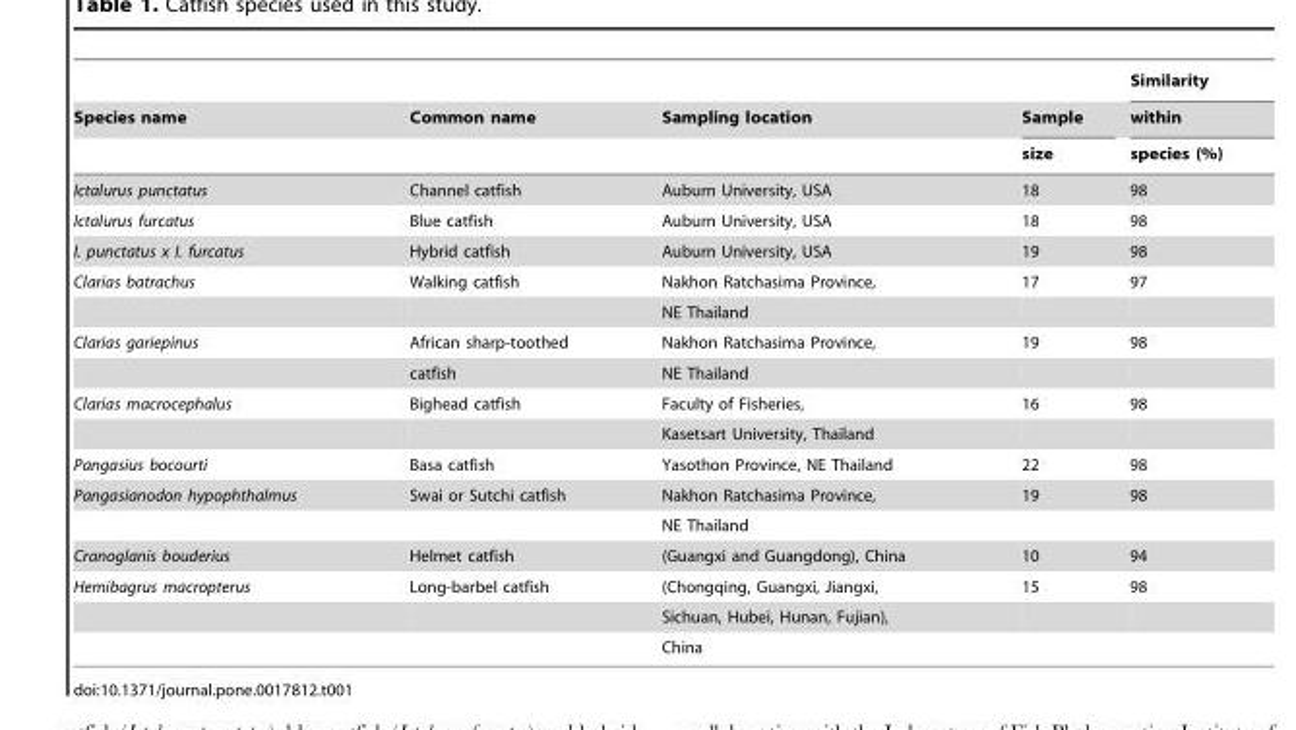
<table><thead><tr><td rowspan="3">Species name</td><td rowspan="3">Common name</td><td rowspan="3">Sampling location</td><td rowspan="3">Sample size</td><td rowspan="3">Similarity within species (%)</td></tr><tr></tr><tr></tr></thead><tbody><tr><td>Ictalurus punctatus</td><td>Channel catfish</td><td>Auburn University, USA</td><td>18</td><td>98</td></tr><tr><td>Ictalurus furcatus</td><td>Blue catfish</td><td>Auburn University, USA</td><td>18</td><td>98</td></tr><tr><td>I. punctatus x I. furcatus</td><td>Hybrid catfish</td><td>Auburn University, USA</td><td>19</td><td>98</td></tr><tr><td rowspan="2">Clarias batrachus</td><td>Walking catfish</td><td>Nakhon Ratchasima Province,</td><td>17</td><td>97</td></tr><tr><td></td><td>NE Thailand</td><td></td><td></td></tr><tr><td rowspan="2">Clarias gariepinus</td><td>African sharp-toothed</td><td>Nakhon Ratchasima Province,</td><td>19</td><td>98</td></tr><tr><td>catfish</td><td>NE Thailand</td><td></td><td></td></tr><tr><td rowspan="2">Clarias macrocephalus</td><td>Bighead catfish</td><td>Faculty of Fisheries,</td><td>16</td><td>98</td></tr><tr><td></td><td>Kasetsart University, Thailand</td><td></td><td></td></tr><tr><td>Pangasius bocourti</td><td>Basa catfish</td><td>Yasothon Province, NE Thailand</td><td>22</td><td>98</td></tr><tr><td rowspan="2">Pangasianodon hypophthalmus</td><td>Swai or Sutchi catfish</td><td>Nakhon Ratchasima Province,</td><td>19</td><td>98</td></tr><tr><td></td><td>NE Thailand</td><td></td><td></td></tr><tr><td>Cranoglanis bouderius</td><td>Helmet catfish</td><td>(Guangxi and Guangdong), China</td><td>10</td><td>94</td></tr><tr><td rowspan="3">Hemibagrus macropterus</td><td>Long-barbel catfish</td><td>(Chongqing, Guangxi, Jiangxi,</td><td>15</td><td>98</td></tr><tr><td></td><td>Sichuan, Hubei, Hunan, Fujian),</td><td></td><td></td></tr><tr><td></td><td>China</td><td></td><td></td></tr></tbody></table>